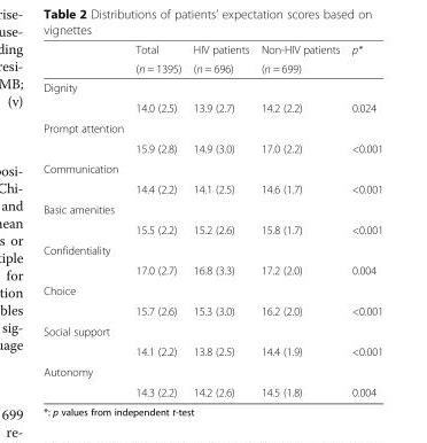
<table><thead><tr><td rowspan="2"></td><td rowspan="2">Total (n = 1395)</td><td rowspan="2">HIV patients (n = 696)</td><td rowspan="2">Non-HIV patients (n = 699)</td><td rowspan="2">p*</td></tr><tr></tr></thead><tbody><tr><td colspan="5">Dignity</td></tr><tr><td></td><td>14.0 (2.5)</td><td>13.9 (2.7)</td><td>14.2 (2.2)</td><td>0.024</td></tr><tr><td colspan="5">Prompt attention</td></tr><tr><td></td><td>15.9 (2.8)</td><td>14.9 (3.0)</td><td>17.0 (2.2)</td><td>&lt;0.001</td></tr><tr><td colspan="5">Communication</td></tr><tr><td></td><td>14.4 (2.2)</td><td>14.1 (2.5)</td><td>14.6 (1.7)</td><td>&lt;0.001</td></tr><tr><td colspan="5">Basic amenities</td></tr><tr><td></td><td>15.5 (2.2)</td><td>15.2 (2.6)</td><td>15.8 (1.7)</td><td>&lt;0.001</td></tr><tr><td colspan="5">Confidentiality</td></tr><tr><td></td><td>17.0 (2.7)</td><td>16.8 (3.3)</td><td>17.2 (2.0)</td><td>0.004</td></tr><tr><td colspan="5">Choice</td></tr><tr><td></td><td>15.7 (2.6)</td><td>15.3 (3.0)</td><td>16.2 (2.0)</td><td>&lt;0.001</td></tr><tr><td colspan="5">Social support</td></tr><tr><td></td><td>14.1 (2.2)</td><td>13.8 (2.5)</td><td>14.4 (1.9)</td><td>&lt;0.001</td></tr><tr><td colspan="5">Autonomy</td></tr><tr><td></td><td>14.3 (2.2)</td><td>14.2 (2.6)</td><td>14.5 (1.8)</td><td>0.004</td></tr></tbody></table>